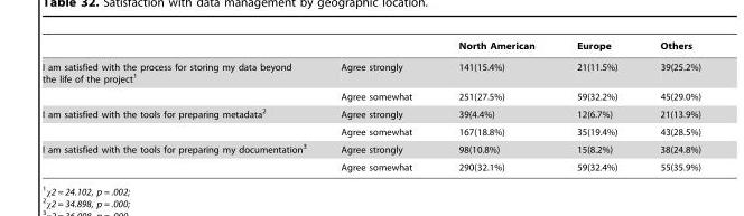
<table><thead><tr><td></td><td></td><td>North American</td><td>Europe</td><td>Others</td></tr></thead><tbody><tr><td rowspan="2">I am satisfied with the process for storing my data beyond the life of the project<sup>1</sup></td><td>Agree strongly</td><td>141(15.4%)</td><td>21(11.5%)</td><td>39(25.2%)</td></tr><tr><td>Agree somewhat</td><td>251(27.5%)</td><td>59(32.2%)</td><td>45(29.0%)</td></tr><tr><td rowspan="2">I am satisfied with the tools for preparing metadata<sup>2</sup></td><td>Agree strongly</td><td>39(4.4%)</td><td>12(6.7%)</td><td>21(13.9%)</td></tr><tr><td>Agree somewhat</td><td>167(18.8%)</td><td>35(19.4%)</td><td>43(28.5%)</td></tr><tr><td rowspan="2">I am satisfied with the tools for preparing my documentation<sup>3</sup></td><td>Agree strongly</td><td>98(10.8%)</td><td>15(8.2%)</td><td>38(24.8%)</td></tr><tr><td>Agree somewhat</td><td>290(32.1%)</td><td>59(32.4%)</td><td>55(35.9%)</td></tr></tbody></table>